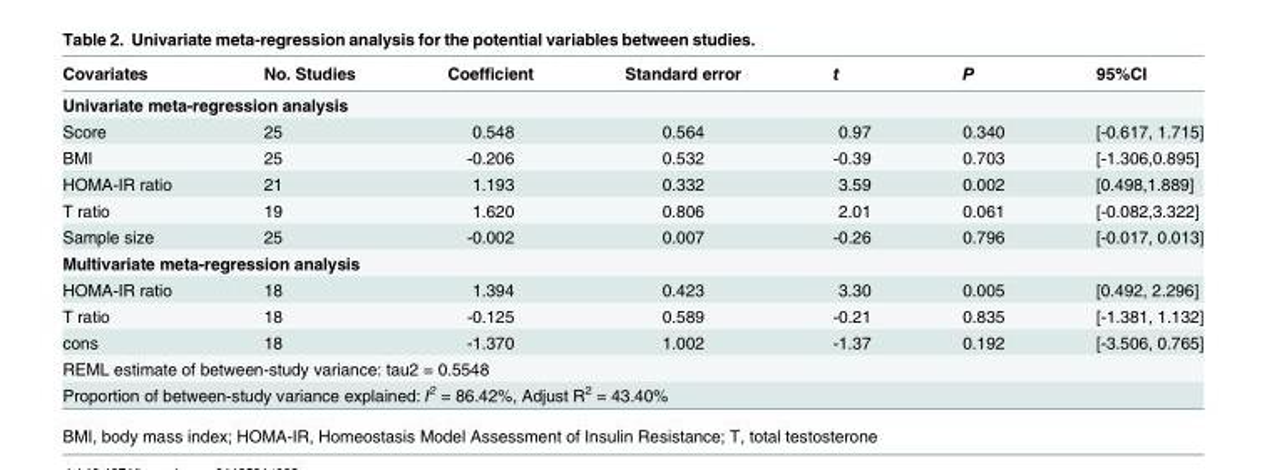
<table><thead><tr><td>Covariates</td><td>No. Studies</td><td>Coefficient</td><td>Standard error</td><td>t</td><td>P</td><td>95%CI</td></tr></thead><tbody><tr><td colspan="7">Univariate meta-regression analysis</td></tr><tr><td>Score</td><td>25</td><td>0.548</td><td>0.564</td><td>0.97</td><td>0.340</td><td>[-0.617, 1.715]</td></tr><tr><td>BMI</td><td>25</td><td>-0.206</td><td>0.532</td><td>-0.39</td><td>0.703</td><td>[-1.306,0.895]</td></tr><tr><td>HOMA-IR ratio</td><td>21</td><td>1.193</td><td>0.332</td><td>3.59</td><td>0.002</td><td>[0.498,1.889]</td></tr><tr><td>T ratio</td><td>19</td><td>1.620</td><td>0.806</td><td>2.01</td><td>0.061</td><td>[-0.082,3.322]</td></tr><tr><td>Sample size</td><td>25</td><td>-0.002</td><td>0.007</td><td>-0.26</td><td>0.796</td><td>[-0.017, 0.013]</td></tr><tr><td colspan="7">Multivariate meta-regression analysis</td></tr><tr><td>HOMA-IR ratio</td><td>18</td><td>1.394</td><td>0.423</td><td>3.30</td><td>0.005</td><td>[0.492, 2.296]</td></tr><tr><td>T ratio</td><td>18</td><td>-0.125</td><td>0.589</td><td>-0.21</td><td>0.835</td><td>[-1.381, 1.132]</td></tr><tr><td>cons</td><td>18</td><td>-1.370</td><td>1.002</td><td>-1.37</td><td>0.192</td><td>[-3.506, 0.765]</td></tr><tr><td colspan="7">REML estimate of between-study variance: tau2 = 0.5548</td></tr><tr><td colspan="7">Proportion of between-study variance explained: I<sup>2</sup> = 86.42%, Adjust R<sup>2</sup> = 43.40%</td></tr></tbody></table>